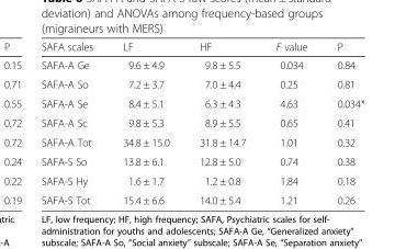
<table><thead><tr><td>SAFA scales</td><td>LF</td><td>HF</td><td>F value</td><td>P</td></tr></thead><tbody><tr><td>SAFA-A Ge</td><td>9.6 ± 4.9</td><td>9.8 ± 5.5</td><td>0.034</td><td>0.84</td></tr><tr><td>SAFA-A So</td><td>7.2 ± 3.7</td><td>7.0 ± 4.4</td><td>0.25</td><td>0.81</td></tr><tr><td>SAFA-A Se</td><td>8.4 ± 5.1</td><td>6.3 ± 4.3</td><td>4.63</td><td>0.034*</td></tr><tr><td>SAFA-A Sc</td><td>9.8 ± 5.3</td><td>8.9 ± 5.5</td><td>0.65</td><td>0.41</td></tr><tr><td>SAFA-A Tot</td><td>34.8 ± 15.0</td><td>31.8 ± 14.7</td><td>1.01</td><td>0.32</td></tr><tr><td>SAFA-S So</td><td>13.8 ± 6.1</td><td>12.8 ± 5.0</td><td>0.74</td><td>0.38</td></tr><tr><td>SAFA-S Hy</td><td>1.6 ± 1.7</td><td>1.2 ± 0.8</td><td>1.84</td><td>0.18</td></tr><tr><td>SAFA-S Tot</td><td>15.4 ± 6.6</td><td>14.0 ± 5.4</td><td>1.21</td><td>0.26</td></tr></tbody></table>